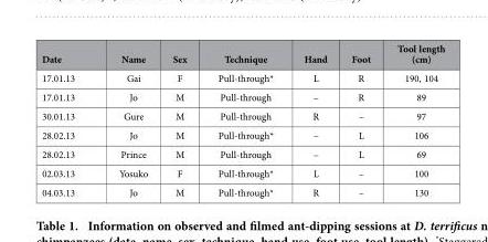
<table><thead><tr><td>Date</td><td>Name</td><td>Sex</td><td>Technique</td><td>Hand</td><td>Foot</td><td>Tool length (cm)</td></tr></thead><tbody><tr><td>17.01.13</td><td>Gai</td><td>F</td><td>Pull-through*</td><td>L</td><td>R</td><td>190, 104</td></tr><tr><td>17.01.13</td><td>Jo</td><td>M</td><td>Pull-through</td><td>–</td><td>R</td><td>89</td></tr><tr><td>30.01.13</td><td>Gure</td><td>M</td><td>Pull-through</td><td>R</td><td>–</td><td>97</td></tr><tr><td>28.02.13</td><td>Jo</td><td>M</td><td>Pull-through*</td><td>–</td><td>L</td><td>106</td></tr><tr><td>28.02.13</td><td>Prince</td><td>M</td><td>Pull-through</td><td>–</td><td>L</td><td>69</td></tr><tr><td>02.03.13</td><td>Yosuko</td><td>F</td><td>Pull-through*</td><td>L</td><td>–</td><td>100</td></tr><tr><td>04.03.13</td><td>Jo</td><td>M</td><td>Pull-through*</td><td>R</td><td>–</td><td>130</td></tr></tbody></table>